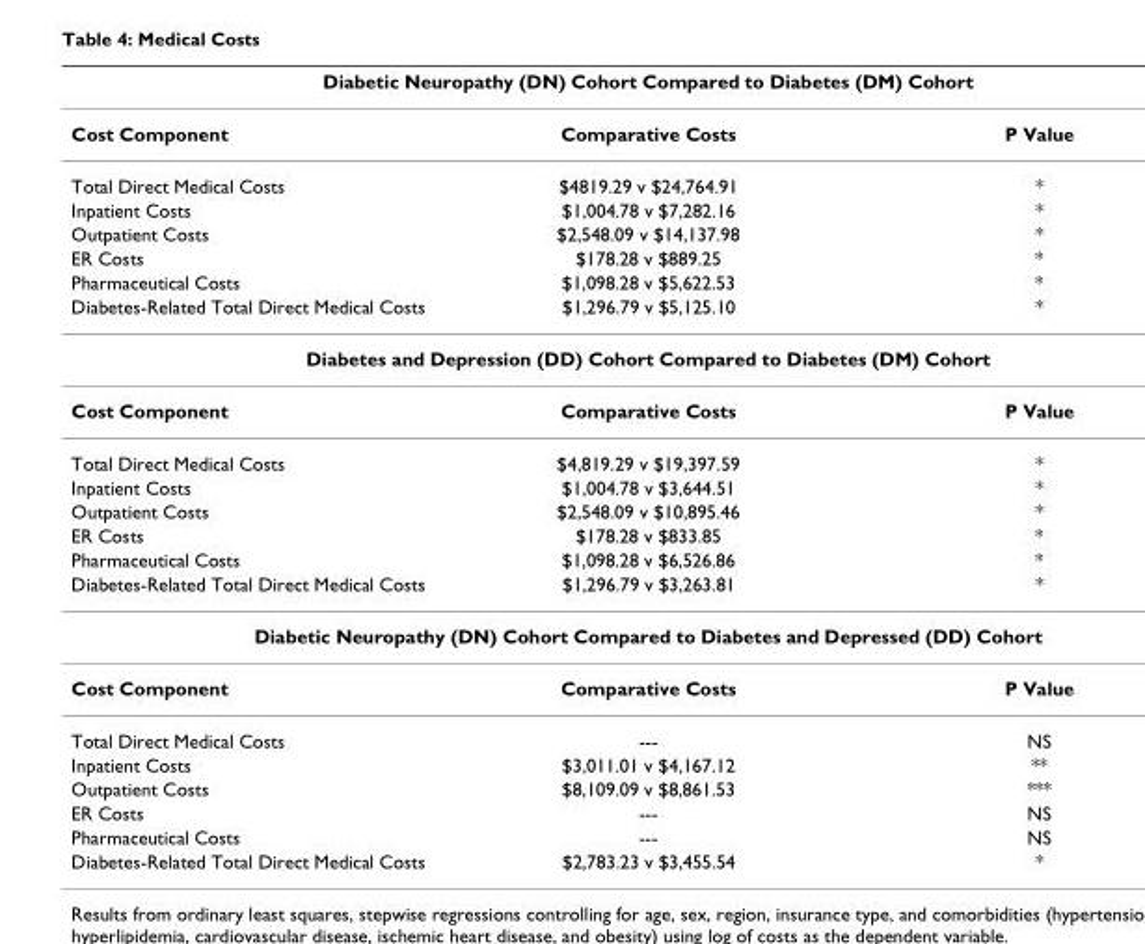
<table><thead><tr><td colspan="3">Diabetic Neuropathy (DN) Cohort Compared to Diabetes (DM) Cohort</td></tr><tr><td>Cost Component</td><td>Comparative Costs</td><td>P Value</td></tr></thead><tbody><tr><td>Total Direct Medical Costs</td><td>$4819.29 v $24,764.91</td><td>*</td></tr><tr><td>Inpatient Costs</td><td>$1,004.78 v $7,282.16</td><td>*</td></tr><tr><td>Outpatient Costs</td><td>$2,548.09 v $14,137.98</td><td>*</td></tr><tr><td>ER Costs</td><td>$178.28 v $889.25</td><td>*</td></tr><tr><td>Pharmaceutical Costs</td><td>$1,098.28 v $5,622.53</td><td>*</td></tr><tr><td>Diabetes-Related Total Direct Medical Costs</td><td>$1,296.79 v $5,125.10</td><td>*</td></tr><tr><td colspan="3">Diabetes and Depression (DD) Cohort Compared to Diabetes (DM) Cohort</td></tr><tr><td>Cost Component</td><td>Comparative Costs</td><td>P Value</td></tr><tr><td>Total Direct Medical Costs</td><td>$4,819.29 v $19,397.59</td><td>*</td></tr><tr><td>Inpatient Costs</td><td>$1,004.78 v $3,644.51</td><td>*</td></tr><tr><td>Outpatient Costs</td><td>$2,548.09 v $10,895.46</td><td>*</td></tr><tr><td>ER Costs</td><td>$178.28 v $833.85</td><td>*</td></tr><tr><td>Pharmaceutical Costs</td><td>$1,098.28 v $6,526.86</td><td>*</td></tr><tr><td>Diabetes-Related Total Direct Medical Costs</td><td>$1,296.79 v $3,263.81</td><td>*</td></tr><tr><td colspan="3">Diabetic Neuropathy (DN) Cohort Compared to Diabetes and Depressed (DD) Cohort</td></tr><tr><td>Cost Component</td><td>Comparative Costs</td><td>P Value</td></tr><tr><td>Total Direct Medical Costs</td><td>---</td><td>NS</td></tr><tr><td>Inpatient Costs</td><td>$3,011.01 v $4,167.12</td><td>**</td></tr><tr><td>Outpatient Costs</td><td>$8,109.09 v $8,861.53</td><td>***</td></tr><tr><td>ER Costs</td><td>---</td><td>NS</td></tr><tr><td>Pharmaceutical Costs</td><td>---</td><td>NS</td></tr><tr><td>Diabetes-Related Total Direct Medical Costs</td><td>$2,783.23 v $3,455.54</td><td>*</td></tr></tbody></table>